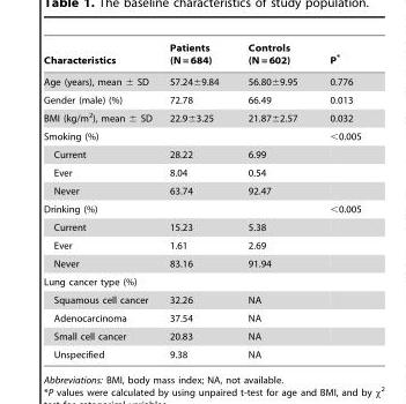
<table><thead><tr><td>Characteristics</td><td>Patients (N = 684)</td><td>Controls (N = 602)</td><td>P*</td></tr></thead><tbody><tr><td>Age (years), mean ± SD</td><td>57.24±9.84</td><td>56.80±9.95</td><td>0.776</td></tr><tr><td>Gender (male) (%)</td><td>72.78</td><td>66.49</td><td>0.013</td></tr><tr><td>BMI (kg/m<sup>2</sup>), mean ± SD</td><td>22.9±3.25</td><td>21.87±2.57</td><td>0.032</td></tr><tr><td>Smoking (%)</td><td></td><td></td><td>&lt;0.005</td></tr><tr><td>Current</td><td>28.22</td><td>6.99</td><td></td></tr><tr><td>Ever</td><td>8.04</td><td>0.54</td><td></td></tr><tr><td>Never</td><td>63.74</td><td>92.47</td><td></td></tr><tr><td>Drinking (%)</td><td></td><td></td><td>&lt;0.005</td></tr><tr><td>Current</td><td>15.23</td><td>5.38</td><td></td></tr><tr><td>Ever</td><td>1.61</td><td>2.69</td><td></td></tr><tr><td>Never</td><td>83.16</td><td>91.94</td><td></td></tr><tr><td colspan="4">Lung cancer type (%)</td></tr><tr><td>Squamous cell cancer</td><td>32.26</td><td>NA</td><td></td></tr><tr><td>Adenocarcinoma</td><td>37.54</td><td>NA</td><td></td></tr><tr><td>Small cell cancer</td><td>20.83</td><td>NA</td><td></td></tr><tr><td>Unspecified</td><td>9.38</td><td>NA</td><td></td></tr></tbody></table>